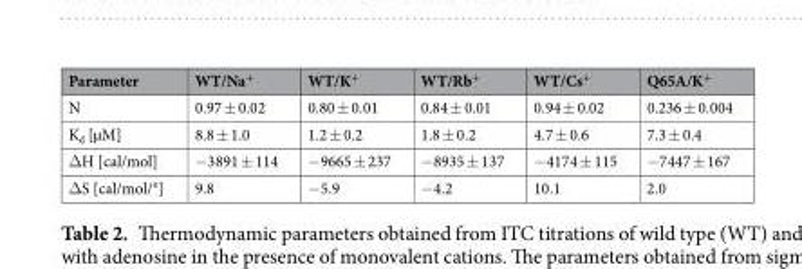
<table><thead><tr><td>Parameter</td><td>WT/Na<sup>+</sup></td><td>WT/K<sup>+</sup></td><td>WT/Rb<sup>+</sup></td><td>WT/Cs<sup>+</sup></td><td>Q65A/K<sup>+</sup></td></tr></thead><tbody><tr><td>N</td><td>0.97 ± 0.02</td><td>0.80 ± 0.01</td><td>0.84 ± 0.01</td><td>0.94 ± 0.02</td><td>0.236 ± 0.004</td></tr><tr><td>K<sub>d</sub> [µM]</td><td>8.8 ± 1.0</td><td>1.2 ± 0.2</td><td>1.8 ± 0.2</td><td>4.7 ± 0.6</td><td>7.3 ± 0.4</td></tr><tr><td>ΔH [cal/mol]</td><td>−3891 ± 114</td><td>−9665 ± 237</td><td>−8935 ± 137</td><td>−4174 ± 115</td><td>−7447 ± 167</td></tr><tr><td>ΔS [cal/mol/°]</td><td>9.8</td><td>−5.9</td><td>−4.2</td><td>10.1</td><td>2.0</td></tr></tbody></table>